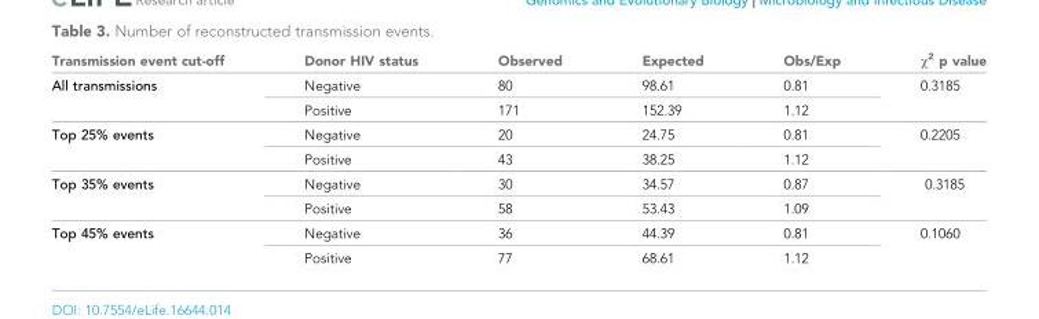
<table><thead><tr><td>Transmission event cut-off</td><td>Donor HIV status</td><td>Observed</td><td>Expected</td><td>Obs/Exp</td><td>χ<sup>2</sup> p value</td></tr></thead><tbody><tr><td rowspan="2">All transmissions</td><td>Negative</td><td>80</td><td>98.61</td><td>0.81</td><td rowspan="2">0.3185</td></tr><tr><td>Positive</td><td>171</td><td>152.39</td><td>1.12</td></tr><tr><td rowspan="2">Top 25% events</td><td>Negative</td><td>20</td><td>24.75</td><td>0.81</td><td rowspan="2">0.2205</td></tr><tr><td>Positive</td><td>43</td><td>38.25</td><td>1.12</td></tr><tr><td rowspan="2">Top 35% events</td><td>Negative</td><td>30</td><td>34.57</td><td>0.87</td><td rowspan="2">0.3185</td></tr><tr><td>Positive</td><td>58</td><td>53.43</td><td>1.09</td></tr><tr><td rowspan="2">Top 45% events</td><td>Negative</td><td>36</td><td>44.39</td><td>0.81</td><td rowspan="2">0.1060</td></tr><tr><td>Positive</td><td>77</td><td>68.61</td><td>1.12</td></tr></tbody></table>